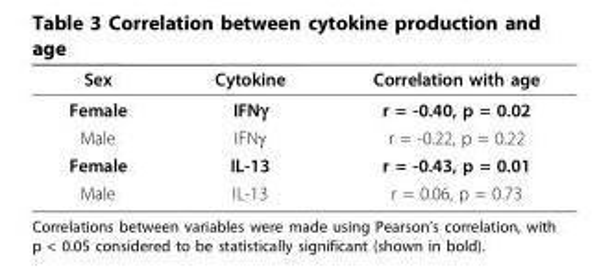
<table><thead><tr><td>Sex</td><td>Cytokine</td><td>Correlation with age</td></tr></thead><tbody><tr><td>Female</td><td>IFNγ</td><td>r = -0.40, p = 0.02</td></tr><tr><td>Male</td><td>IFNγ</td><td>r = -0.22, p = 0.22</td></tr><tr><td>Female</td><td>IL-13</td><td>r = -0.43, p = 0.01</td></tr><tr><td>Male</td><td>IL-13</td><td>r = 0.06, p = 0.73</td></tr></tbody></table>